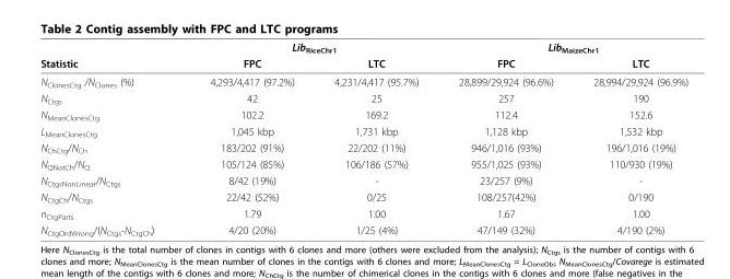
<table><thead><tr><td rowspan="2">Statistic</td><td colspan="2">Lib<sub>RiceChr1</sub></td><td colspan="2">Lib<sub>MaizeChr1</sub></td></tr><tr><td>FPC</td><td>LTC</td><td>FPC</td><td>LTC</td></tr></thead><tbody><tr><td>N<sub>ClonesCtg</sub> /N<sub>Clones</sub> (%)</td><td>4,293/4,417 (97.2%)</td><td>4,231/4,417 (95.7%)</td><td>28,899/29,924 (96.6%)</td><td>28,994/29,924 (96.9%)</td></tr><tr><td>N<sub>Ctgs</sub></td><td>42</td><td>25</td><td>257</td><td>190</td></tr><tr><td>N<sub>MeanClonesCtg</sub></td><td>102.2</td><td>169.2</td><td>112.4</td><td>152.6</td></tr><tr><td>L<sub>MeanClonesCtg</sub></td><td>1,045 kbp</td><td>1,731 kbp</td><td>1,128 kbp</td><td>1,532 kbp</td></tr><tr><td>N<sub>ChCtg</sub>/N<sub>Ch</sub></td><td>183/202 (91%)</td><td>22/202 (11%)</td><td>946/1,016 (93%)</td><td>196/1,016 (19%)</td></tr><tr><td>N<sub>QNotCh</sub>/N<sub>Q</sub></td><td>105/124 (85%)</td><td>106/186 (57%)</td><td>955/1,025 (93%)</td><td>110/930 (19%)</td></tr><tr><td>N<sub>CtgsNonLinear</sub>/N<sub>Ctgs</sub></td><td>8/42 (19%)</td><td>-</td><td>23/257 (9%)</td><td>-</td></tr><tr><td>N<sub>CtgCh</sub>/N<sub>Ctgs</sub></td><td>22/42 (52%)</td><td>0/25</td><td>108/257(42%)</td><td>0/190</td></tr><tr><td>n<sub>CtgParts</sub></td><td>1.79</td><td>1.00</td><td>1.67</td><td>1.00</td></tr><tr><td>N<sub>CtgOrdWrong</sub>/(N<sub>Ctgs</sub>-N<sub>CtgCh</sub>)</td><td>4/20 (20%)</td><td>1/25 (4%)</td><td>47/149 (32%)</td><td>4/190 (2%)</td></tr></tbody></table>